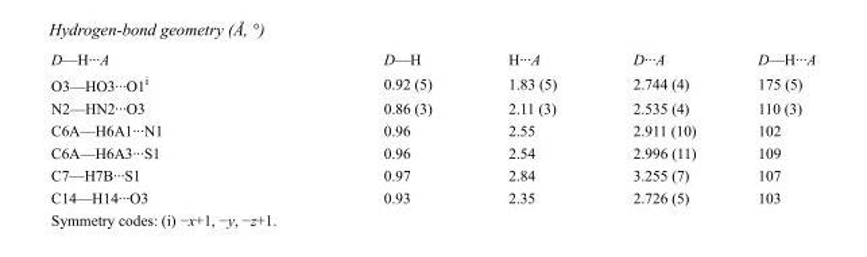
<table><tbody><tr><td>D—H···A</td><td>D—H</td><td>H···A</td><td>D···A</td><td>D—H···A</td></tr><tr><td>O3—HO3···O1<sup>i</sup></td><td>0.92 (5)</td><td>1.83 (5)</td><td>2.744 (4)</td><td>175 (5)</td></tr><tr><td>N2—HN2···O3</td><td>0.86 (3)</td><td>2.11 (3)</td><td>2.535 (4)</td><td>110 (3)</td></tr><tr><td>C6A—H6A1···N1</td><td>0.96</td><td>2.55</td><td>2.911 (10)</td><td>102</td></tr><tr><td>C6A—H6A3···S1</td><td>0.96</td><td>2.54</td><td>2.996 (11)</td><td>109</td></tr><tr><td>C7—H7B···S1</td><td>0.97</td><td>2.84</td><td>3.255 (7)</td><td>107</td></tr><tr><td>C14—H14···O3</td><td>0.93</td><td>2.35</td><td>2.726 (5)</td><td>103</td></tr></tbody></table>